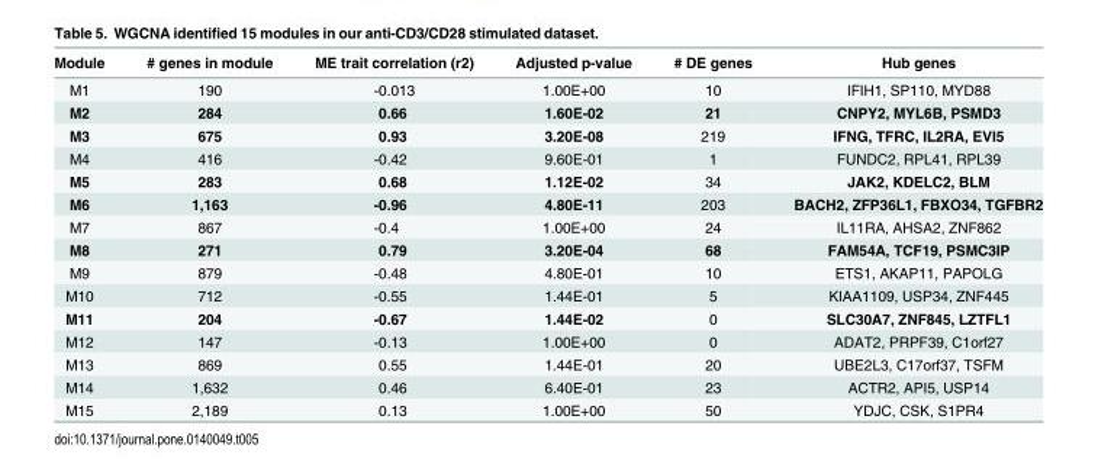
<table><thead><tr><td>Module</td><td># genes in module</td><td>ME trait correlation (r2)</td><td>Adjusted p-value</td><td># DE genes</td><td>Hub genes</td></tr></thead><tbody><tr><td>M1</td><td>190</td><td>-0.013</td><td>1.00E+00</td><td>10</td><td>IFIH1, SP110, MYD88</td></tr><tr><td>M2</td><td>284</td><td>0.66</td><td>1.60E-02</td><td>21</td><td>CNPY2, MYL6B, PSMD3</td></tr><tr><td>M3</td><td>675</td><td>0.93</td><td>3.20E-08</td><td>219</td><td>IFNG, TFRC, IL2RA, EVI5</td></tr><tr><td>M4</td><td>416</td><td>-0.42</td><td>9.60E-01</td><td>1</td><td>FUNDC2, RPL41, RPL39</td></tr><tr><td>M5</td><td>283</td><td>0.68</td><td>1.12E-02</td><td>34</td><td>JAK2, KDELC2, BLM</td></tr><tr><td>M6</td><td>1,163</td><td>-0.96</td><td>4.80E-11</td><td>203</td><td>BACH2, ZFP36L1, FBXO34, TGFBR2</td></tr><tr><td>M7</td><td>867</td><td>-0.4</td><td>1.00E+00</td><td>24</td><td>IL11RA, AHSA2, ZNF862</td></tr><tr><td>M8</td><td>271</td><td>0.79</td><td>3.20E-04</td><td>68</td><td>FAM54A, TCF19, PSMC3IP</td></tr><tr><td>M9</td><td>879</td><td>-0.48</td><td>4.80E-01</td><td>10</td><td>ETS1, AKAP11, PAPOLG</td></tr><tr><td>M10</td><td>712</td><td>-0.55</td><td>1.44E-01</td><td>5</td><td>KIAA1109, USP34, ZNF445</td></tr><tr><td>M11</td><td>204</td><td>-0.67</td><td>1.44E-02</td><td>0</td><td>SLC30A7, ZNF845, LZTFL1</td></tr><tr><td>M12</td><td>147</td><td>-0.13</td><td>1.00E+00</td><td>0</td><td>ADAT2, PRPF39, C1orf27</td></tr><tr><td>M13</td><td>869</td><td>0.55</td><td>1.44E-01</td><td>20</td><td>UBE2L3, C17orf37, TSFM</td></tr><tr><td>M14</td><td>1,632</td><td>0.46</td><td>6.40E-01</td><td>23</td><td>ACTR2, API5, USP14</td></tr><tr><td>M15</td><td>2,189</td><td>0.13</td><td>1.00E+00</td><td>50</td><td>YDJC, CSK, S1PR4</td></tr></tbody></table>